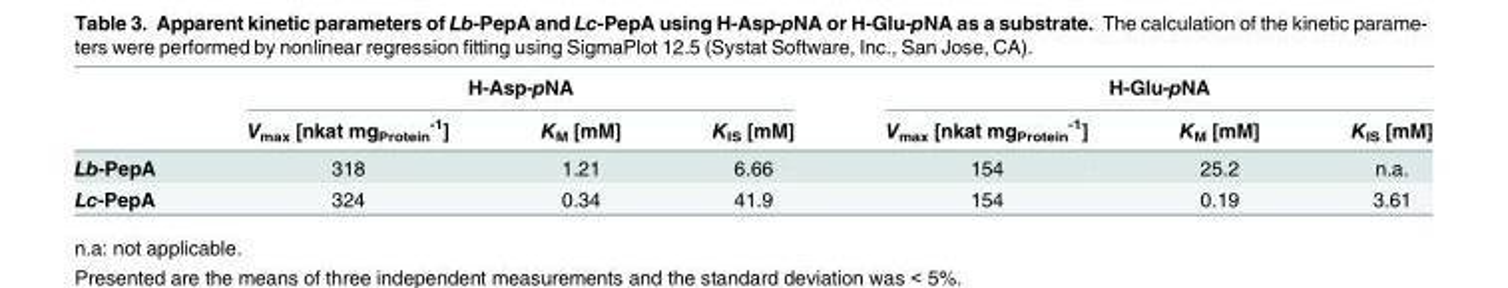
<table><thead><tr><td rowspan="2"></td><td colspan="3">H-Asp-pNA</td><td colspan="3">H-Glu-pNA</td></tr><tr><td>V<sub>max</sub> [nkat mg<sub>Protein</sub> <sup>-1</sup>]</td><td>K<sub>M</sub> [mM]</td><td>K<sub>IS</sub> [mM]</td><td>V<sub>max</sub> [nkat mg<sub>Protein</sub> <sup>-1</sup>]</td><td>K<sub>M</sub> [mM]</td><td>K<sub>IS</sub> [mM]</td></tr></thead><tbody><tr><td>Lb-PepA</td><td>318</td><td>1.21</td><td>6.66</td><td>154</td><td>25.2</td><td>n.a.</td></tr><tr><td>Lc-PepA</td><td>324</td><td>0.34</td><td>41.9</td><td>154</td><td>0.19</td><td>3.61</td></tr></tbody></table>